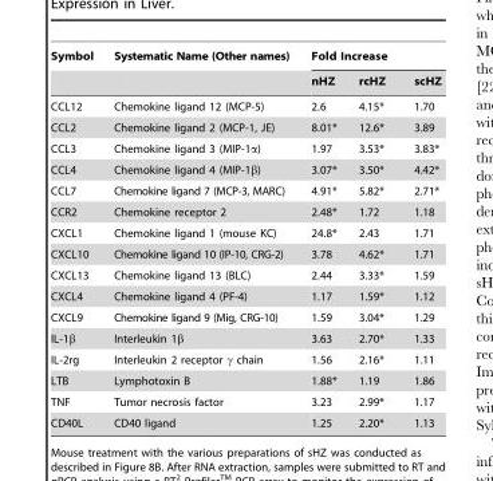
<table><thead><tr><td rowspan="2">Symbol</td><td rowspan="2">Systematic Name (Other names)</td><td colspan="3">Fold Increase</td></tr><tr><td>nHZ</td><td>rcHZ</td><td>scHZ</td></tr></thead><tbody><tr><td>CCL12</td><td>Chemokine ligand 12 (MCP-5)</td><td>2.6</td><td>4.15*</td><td>1.70</td></tr><tr><td>CCL2</td><td>Chemokine ligand 2 (MCP-1, JE)</td><td>8.01*</td><td>12.6*</td><td>3.89</td></tr><tr><td>CCL3</td><td>Chemokine ligand 3 (MIP-1α)</td><td>1.97</td><td>3.53*</td><td>3.83*</td></tr><tr><td>CCL4</td><td>Chemokine ligand 4 (MIP-1β)</td><td>3.07*</td><td>3.50*</td><td>4.42*</td></tr><tr><td>CCL7</td><td>Chemokine ligand 7 (MCP-3, MARC)</td><td>4.91*</td><td>5.82*</td><td>2.71*</td></tr><tr><td>CCR2</td><td>Chemokine receptor 2</td><td>2.48*</td><td>1.72</td><td>1.18</td></tr><tr><td>CXCL1</td><td>Chemokine ligand 1 (mouse KC)</td><td>24.8*</td><td>2.43</td><td>1.71</td></tr><tr><td>CXCL10</td><td>Chemokine ligand 10 (IP-10, CRG-2)</td><td>3.78</td><td>4.62*</td><td>1.71</td></tr><tr><td>CXCL13</td><td>Chemokine ligand 13 (BLC)</td><td>2.44</td><td>3.33*</td><td>1.59</td></tr><tr><td>CXCL4</td><td>Chemokine ligand 4 (PF-4)</td><td>1.17</td><td>1.59*</td><td>1.12</td></tr><tr><td>CXCL9</td><td>Chemokine ligand 9 (Mig, CRG-10)</td><td>1.59</td><td>3.04*</td><td>1.29</td></tr><tr><td>IL-1β</td><td>Interleukin 1β</td><td>3.63</td><td>2.70*</td><td>1.33</td></tr><tr><td>IL-2rg</td><td>Interleukin 2 receptor γ chain</td><td>1.56</td><td>2.16*</td><td>1.11</td></tr><tr><td>LTB</td><td>Lymphotoxin B</td><td>1.88*</td><td>1.19</td><td>1.86</td></tr><tr><td>TNF</td><td>Tumor necrosis factor</td><td>3.23</td><td>2.99*</td><td>1.17</td></tr><tr><td>CD40L</td><td>CD40 ligand</td><td>1.25</td><td>2.20*</td><td>1.13</td></tr></tbody></table>